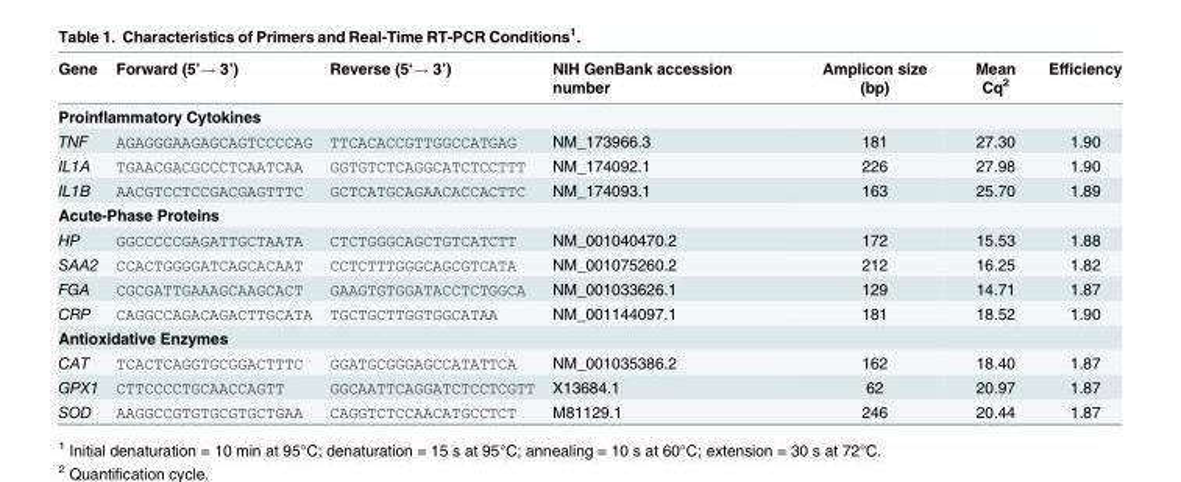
<table><thead><tr><td>Gene</td><td>Forward (5’→ 3’)</td><td>Reverse (5‘→ 3’)</td><td>NIH GenBank accession number</td><td>Amplicon size (bp)</td><td>Mean Cq<sup>2</sup></td><td>Efficiency</td></tr></thead><tbody><tr><td colspan="7">Proinflammatory Cytokines</td></tr><tr><td>TNF</td><td>AGAGGGAAGAGCAGTCCCCAG</td><td>TTCACACCGTTGGCCATGAG</td><td>NM_173966.3</td><td>181</td><td>27.30</td><td>1.90</td></tr><tr><td>IL1A</td><td>TGAACGACGCCCTCAATCAA</td><td>GGTGTCTCAGGCATCTCCTTT</td><td>NM_174092.1</td><td>226</td><td>27.98</td><td>1.90</td></tr><tr><td>IL1B</td><td>AACGTCCTCCGACGAGTTTC</td><td>GCTCATGCAGAACACCACTTC</td><td>NM_174093.1</td><td>163</td><td>25.70</td><td>1.89</td></tr><tr><td colspan="7">Acute-Phase Proteins</td></tr><tr><td>HP</td><td>GGCCCCCGAGATTGCTAATA</td><td>CTCTGGGCAGCTGTCATCTT</td><td>NM_001040470.2</td><td>172</td><td>15.53</td><td>1.88</td></tr><tr><td>SAA2</td><td>CCACTGGGGATCAGCACAAT</td><td>CCTCTTTGGGCAGCGTCATA</td><td>NM_001075260.2</td><td>212</td><td>16.25</td><td>1.82</td></tr><tr><td>FGA</td><td>CGCGATTGAAAGCAAGCACT</td><td>GAAGTGTGGATACCTCTGGCA</td><td>NM_001033626.1</td><td>129</td><td>14.71</td><td>1.87</td></tr><tr><td>CRP</td><td>CAGGCCAGACAGACTTGCATA</td><td>TGCTGCTTGGTGGCATAA</td><td>NM_001144097.1</td><td>181</td><td>18.52</td><td>1.90</td></tr><tr><td colspan="7">Antioxidative Enzymes</td></tr><tr><td>CAT</td><td>TCACTCAGGTGCGGACTTTC</td><td>GGATGCGGGAGCCATATTCA</td><td>NM_001035386.2</td><td>162</td><td>18.40</td><td>1.87</td></tr><tr><td>GPX1</td><td>CTTCCCCTGCAACCAGTT</td><td>GGCAATTCAGGATCTCCTCGTT</td><td>X13684.1</td><td>62</td><td>20.97</td><td>1.87</td></tr><tr><td>SOD</td><td>AAGGCCGTGTGCGTGCTGAA</td><td>CAGGTCTCCAACATGCCTCT</td><td>M81129.1</td><td>246</td><td>20.44</td><td>1.87</td></tr></tbody></table>